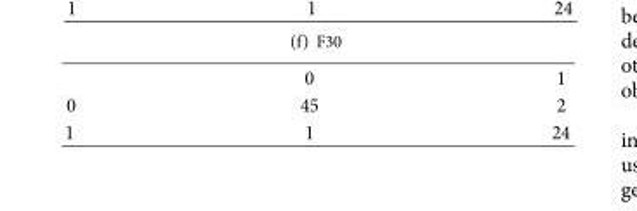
<table><thead><tr><td></td><td>0</td><td>1</td></tr></thead><tbody><tr><td>0</td><td>45</td><td>2</td></tr><tr><td>1</td><td>1</td><td>24</td></tr></tbody></table>